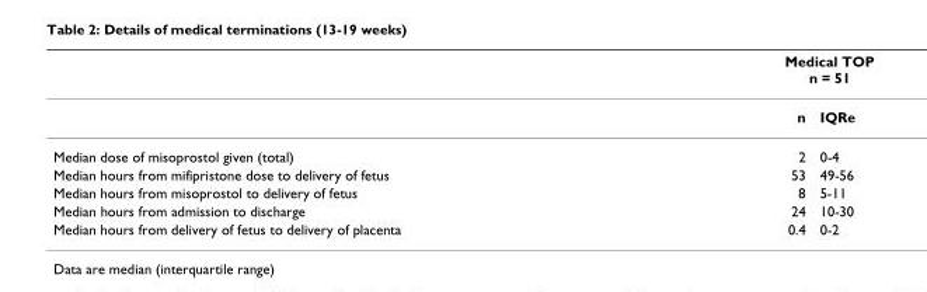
<table><thead><tr><td rowspan="2"></td><td colspan="2">Medical TOP n = 51</td></tr><tr><td>n</td><td>IQRe</td></tr></thead><tbody><tr><td>Median dose of misoprostol given (total)</td><td>2</td><td>0-4</td></tr><tr><td>Median hours from mifipristone dose to delivery of fetus</td><td>53</td><td>49-56</td></tr><tr><td>Median hours from misoprostol to delivery of fetus</td><td>8</td><td>5-11</td></tr><tr><td>Median hours from admission to discharge</td><td>24</td><td>10-30</td></tr><tr><td>Median hours from delivery of fetus to delivery of placenta</td><td>0.4</td><td>0-2</td></tr></tbody></table>